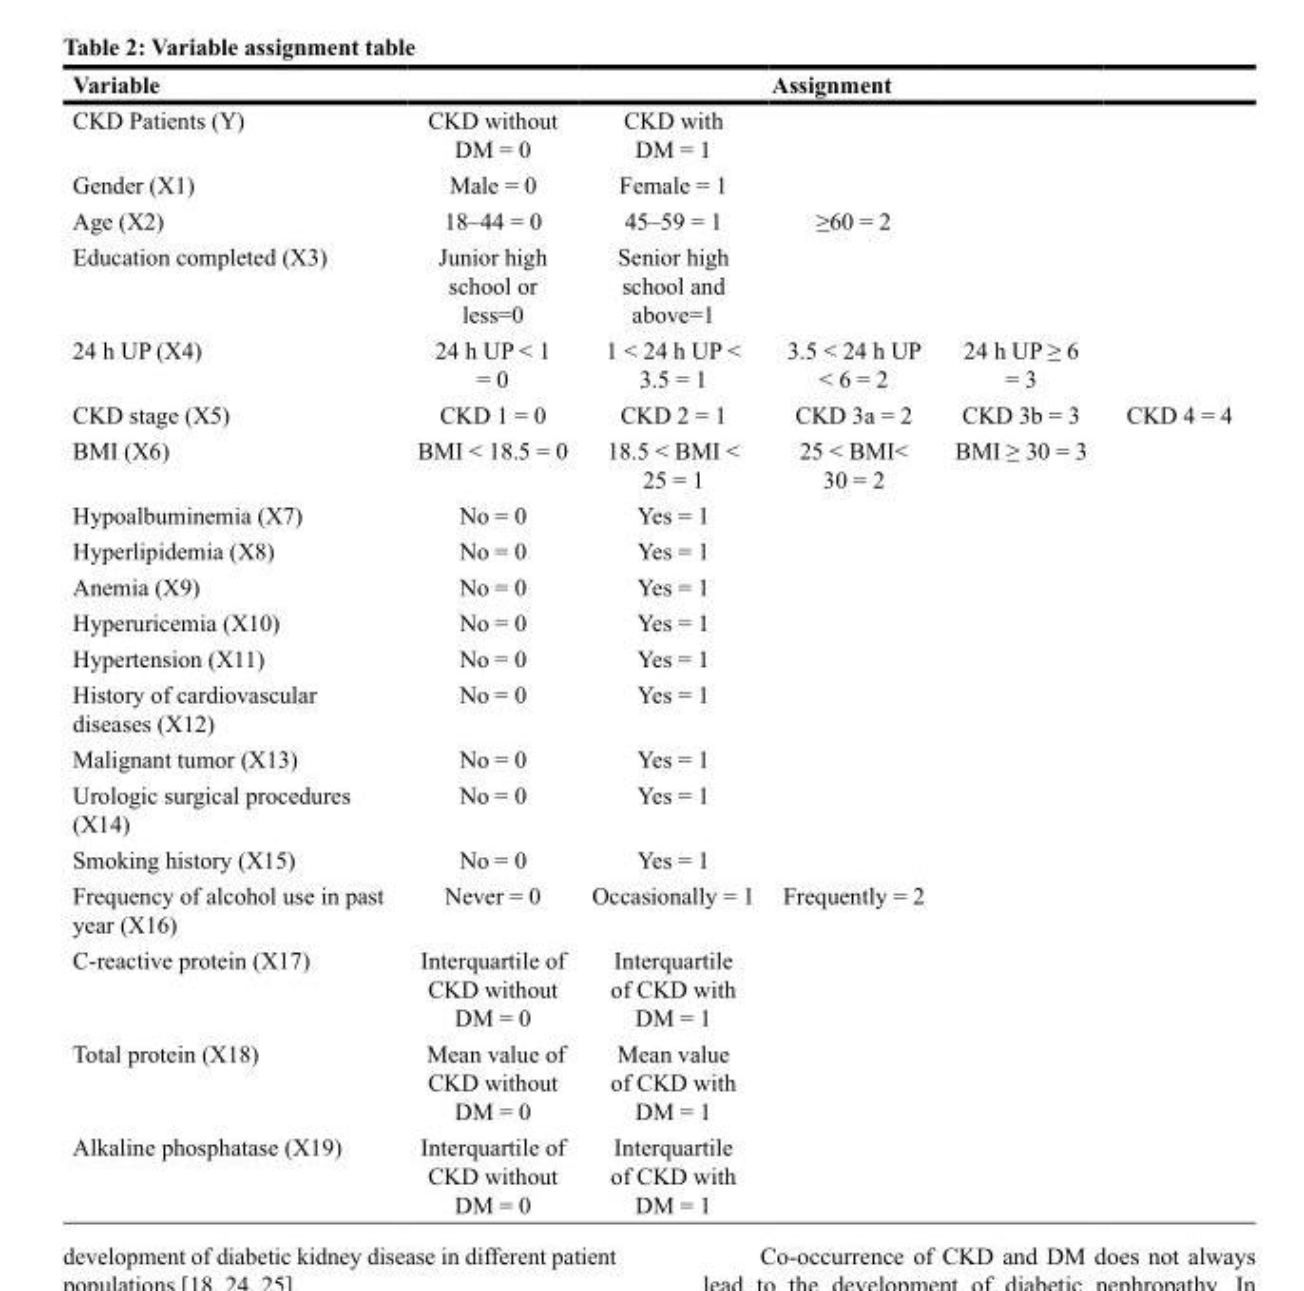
<table><thead><tr><td rowspan="2">Variable CKD Patients (Y)</td><td colspan="5">Assignment</td></tr><tr><td>CKD without DM = 0</td><td>CKD with DM = 1</td><td></td><td></td><td></td></tr></thead><tbody><tr><td>Gender (X1)</td><td>Male = 0</td><td>Female = 1</td><td></td><td></td><td></td></tr><tr><td>Age (X2)</td><td>18–44 = 0</td><td>45–59 = 1</td><td>≥60 = 2</td><td></td><td></td></tr><tr><td>Education completed (X3)</td><td>Junior high school or less=0</td><td>Senior high school and above=1</td><td></td><td></td><td></td></tr><tr><td>24 h UP (X4)</td><td>24 h UP &lt; 1 = 0</td><td>1 &lt; 24 h UP &lt; 3.5 = 1</td><td>3.5 &lt; 24 h UP &lt; 6 = 2</td><td>24 h UP ≥ 6 = 3</td><td></td></tr><tr><td>CKD stage (X5)</td><td>CKD 1 = 0</td><td>CKD 2 = 1</td><td>CKD 3a = 2</td><td>CKD 3b = 3</td><td>CKD 4 = 4</td></tr><tr><td>BMI (X6)</td><td>BMI &lt; 18.5 = 0</td><td>18.5 &lt; BMI &lt; 25 = 1</td><td>25 &lt; BMI&lt; 30 = 2</td><td>BMI ≥ 30 = 3</td><td></td></tr><tr><td>Hypoalbuminemia (X7)</td><td>No = 0</td><td>Yes = 1</td><td></td><td></td><td></td></tr><tr><td>Hyperlipidemia (X8)</td><td>No = 0</td><td>Yes = 1</td><td></td><td></td><td></td></tr><tr><td>Anemia (X9)</td><td>No = 0</td><td>Yes = 1</td><td></td><td></td><td></td></tr><tr><td>Hyperuricemia (X10)</td><td>No = 0</td><td>Yes = 1</td><td></td><td></td><td></td></tr><tr><td>Hypertension (X11)</td><td>No = 0</td><td>Yes = 1</td><td></td><td></td><td></td></tr><tr><td>History of cardiovascular diseases (X12)</td><td>No = 0</td><td>Yes = 1</td><td></td><td></td><td></td></tr><tr><td>Malignant tumor (X13)</td><td>No = 0</td><td>Yes = 1</td><td></td><td></td><td></td></tr><tr><td>Urologic surgical procedures (X14)</td><td>No = 0</td><td>Yes = 1</td><td></td><td></td><td></td></tr><tr><td>Smoking history (X15)</td><td>No = 0</td><td>Yes = 1</td><td></td><td></td><td></td></tr><tr><td>Frequency of alcohol use in past year (X16)</td><td>Never = 0</td><td>Occasionally = 1</td><td>Frequently = 2</td><td></td><td></td></tr><tr><td>C-reactive protein (X17)</td><td>Interquartile of CKD without DM = 0</td><td>Interquartile of CKD with DM = 1</td><td></td><td></td><td></td></tr><tr><td>Total protein (X18)</td><td>Mean value of CKD without DM = 0</td><td>Mean value of CKD with DM = 1</td><td></td><td></td><td></td></tr><tr><td>Alkaline phosphatase (X19)</td><td>Interquartile of CKD without DM = 0</td><td>Interquartile of CKD with DM = 1</td><td></td><td></td><td></td></tr></tbody></table>